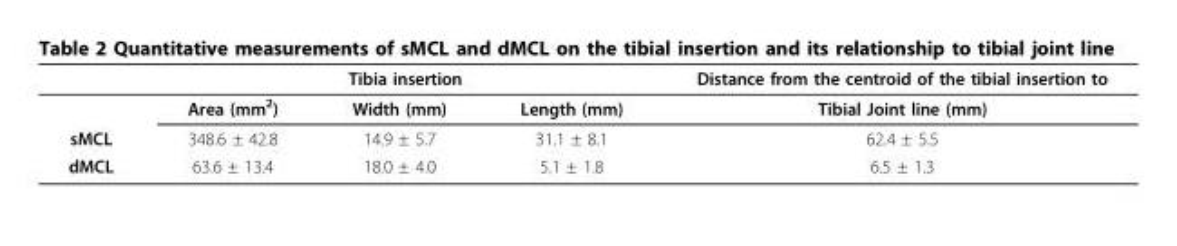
<table><thead><tr><td rowspan="2"></td><td colspan="3">Tibia insertion</td><td rowspan="2">Distance from the centroid of the tibial insertion to Tibial Joint line (mm)</td></tr><tr><td>Area (mm<sup>2</sup>)</td><td>Width (mm)</td><td>Length (mm)</td></tr></thead><tbody><tr><td>sMCL</td><td>348.6 ± 42.8</td><td>14.9 ± 5.7</td><td>31.1 ± 8.1</td><td>62.4 ± 5.5</td></tr><tr><td>dMCL</td><td>63.6 ± 13.4</td><td>18.0 ± 4.0</td><td>5.1 ± 1.8</td><td>6.5 ± 1.3</td></tr></tbody></table>